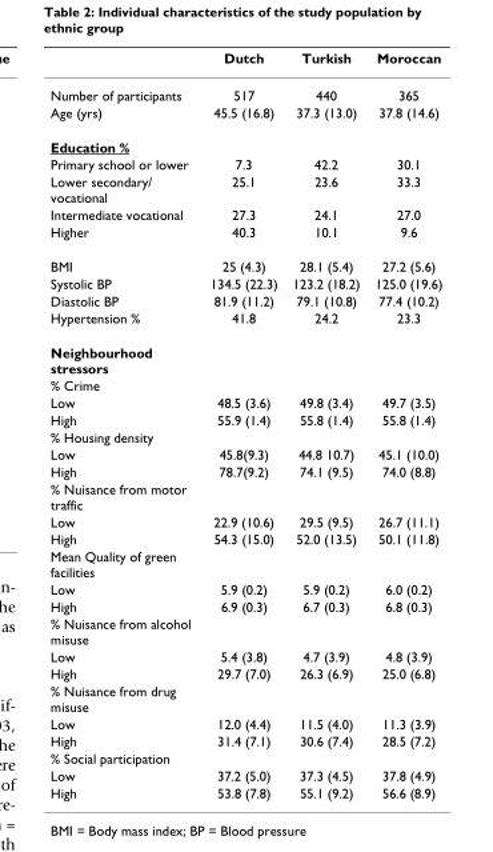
<table><thead><tr><td></td><td>Dutch</td><td>Turkish</td><td>Moroccan</td></tr></thead><tbody><tr><td>Number of participants</td><td>517</td><td>440</td><td>365</td></tr><tr><td>Age (yrs)</td><td>45.5 (16.8)</td><td>37.3 (13.0)</td><td>37.8 (14.6)</td></tr><tr><td colspan="4">Education %</td></tr><tr><td>Primary school or lower</td><td>7.3</td><td>42.2</td><td>30.1</td></tr><tr><td>Lower secondary/ vocational</td><td>25.1</td><td>23.6</td><td>33.3</td></tr><tr><td>Intermediate vocational</td><td>27.3</td><td>24.1</td><td>27.0</td></tr><tr><td>Higher</td><td>40.3</td><td>10.1</td><td>9.6</td></tr><tr><td>BMI</td><td>25 (4.3)</td><td>28.1 (5.4)</td><td>27.2 (5.6)</td></tr><tr><td>Systolic BP</td><td>134.5 (22.3)</td><td>123.2 (18.2)</td><td>125.0 (19.6)</td></tr><tr><td>Diastolic BP</td><td>81.9 (11.2)</td><td>79.1 (10.8)</td><td>77.4 (10.2)</td></tr><tr><td>Hypertension %</td><td>41.8</td><td>24.2</td><td>23.3</td></tr><tr><td colspan="4">Neighbourhood stressors</td></tr><tr><td colspan="4">% Crime</td></tr><tr><td>Low</td><td>48.5 (3.6)</td><td>49.8 (3.4)</td><td>49.7 (3.5)</td></tr><tr><td>High</td><td>55.9 (1.4)</td><td>55.8 (1.4)</td><td>55.8 (1.4)</td></tr><tr><td colspan="4">% Housing density</td></tr><tr><td>Low</td><td>45.8(9.3)</td><td>44.8 10.7)</td><td>45.1 (10.0)</td></tr><tr><td>High</td><td>78.7(9.2)</td><td>74.1 (9.5)</td><td>74.0 (8.8)</td></tr><tr><td colspan="4">% Nuisance from motor traffic</td></tr><tr><td>Low</td><td>22.9 (10.6)</td><td>29.5 (9.5)</td><td>26.7 (11.1)</td></tr><tr><td>High</td><td>54.3 (15.0)</td><td>52.0 (13.5)</td><td>50.1 (11.8)</td></tr><tr><td colspan="4">Mean Quality of green facilities</td></tr><tr><td>Low</td><td>5.9 (0.2)</td><td>5.9 (0.2)</td><td>6.0 (0.2)</td></tr><tr><td>High</td><td>6.9 (0.3)</td><td>6.7 (0.3)</td><td>6.8 (0.3)</td></tr><tr><td colspan="4">% Nuisance from alcohol misuse</td></tr><tr><td>Low</td><td>5.4 (3.8)</td><td>4.7 (3.9)</td><td>4.8 (3.9)</td></tr><tr><td>High</td><td>29.7 (7.0)</td><td>26.3 (6.9)</td><td>25.0 (6.8)</td></tr><tr><td colspan="4">% Nuisance from drug misuse</td></tr><tr><td>Low</td><td>12.0 (4.4)</td><td>11.5 (4.0)</td><td>11.3 (3.9)</td></tr><tr><td>High</td><td>31.4 (7.1)</td><td>30.6 (7.4)</td><td>28.5 (7.2)</td></tr><tr><td colspan="4">% Social participation</td></tr><tr><td>Low</td><td>37.2 (5.0)</td><td>37.3 (4.5)</td><td>37.8 (4.9)</td></tr><tr><td>High</td><td>53.8 (7.8)</td><td>55.1 (9.2)</td><td>56.6 (8.9)</td></tr></tbody></table>